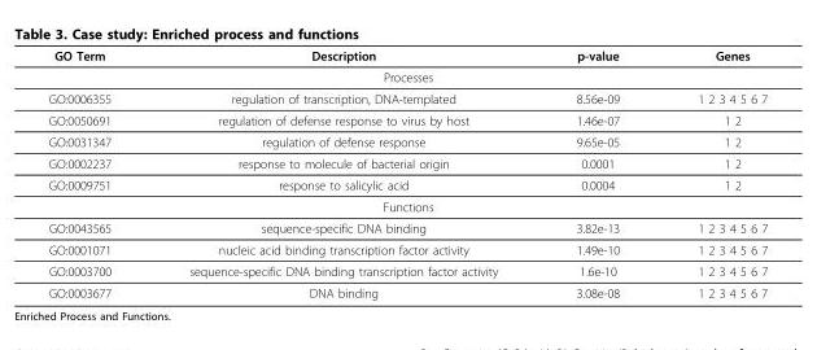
<table><thead><tr><td>GO Term</td><td>Description</td><td>p-value</td><td>Genes</td></tr></thead><tbody><tr><td colspan="4">Processes</td></tr><tr><td>GO:0006355</td><td>regulation of transcription, DNA-templated</td><td>8.56e-09</td><td>1 2 3 4 5 6 7</td></tr><tr><td>GO:0050691</td><td>regulation of defense response to virus by host</td><td>1.46e-07</td><td>1 2</td></tr><tr><td>GO:0031347</td><td>regulation of defense response</td><td>9.65e-05</td><td>1 2</td></tr><tr><td>GO:0002237</td><td>response to molecule of bacterial origin</td><td>0.0001</td><td>1 2</td></tr><tr><td>GO:0009751</td><td>response to salicylic acid</td><td>0.0004</td><td>1 2</td></tr><tr><td colspan="4">Functions</td></tr><tr><td>GO:0043565</td><td>sequence-specific DNA binding</td><td>3.82e-13</td><td>1 2 3 4 5 6 7</td></tr><tr><td>GO:0001071</td><td>nucleic acid binding transcription factor activity</td><td>1.49e-10</td><td>1 2 3 4 5 6 7</td></tr><tr><td>GO:0003700</td><td>sequence-specific DNA binding transcription factor activity</td><td>1.6e-10</td><td>1 2 3 4 5 6 7</td></tr><tr><td>GO:0003677</td><td>DNA binding</td><td>3.08e-08</td><td>1 2 3 4 5 6 7</td></tr></tbody></table>